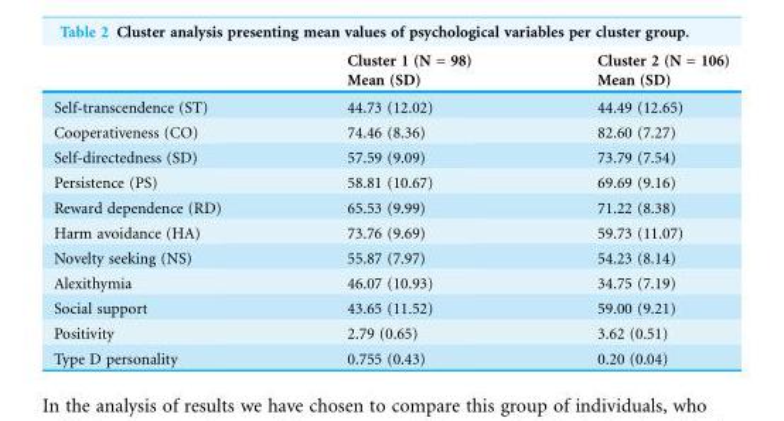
<table><thead><tr><td rowspan="2"></td><td rowspan="2">Cluster 1 (N = 98) Mean (SD)</td><td rowspan="2">Cluster 2 (N = 106) Mean (SD)</td></tr><tr></tr></thead><tbody><tr><td>Self-transcendence (ST)</td><td>44.73 (12.02)</td><td>44.49 (12.65)</td></tr><tr><td>Cooperativeness (CO)</td><td>74.46 (8.36)</td><td>82.60 (7.27)</td></tr><tr><td>Self-directedness (SD)</td><td>57.59 (9.09)</td><td>73.79 (7.54)</td></tr><tr><td>Persistence (PS)</td><td>58.81 (10.67)</td><td>69.69 (9.16)</td></tr><tr><td>Reward dependence (RD)</td><td>65.53 (9.99)</td><td>71.22 (8.38)</td></tr><tr><td>Harm avoidance (HA)</td><td>73.76 (9.69)</td><td>59.73 (11.07)</td></tr><tr><td>Novelty seeking (NS)</td><td>55.87 (7.97)</td><td>54.23 (8.14)</td></tr><tr><td>Alexithymia</td><td>46.07 (10.93)</td><td>34.75 (7.19)</td></tr><tr><td>Social support</td><td>43.65 (11.52)</td><td>59.00 (9.21)</td></tr><tr><td>Positivity</td><td>2.79 (0.65)</td><td>3.62 (0.51)</td></tr><tr><td>Type D personality</td><td>0.755 (0.43)</td><td>0.20 (0.04)</td></tr></tbody></table>